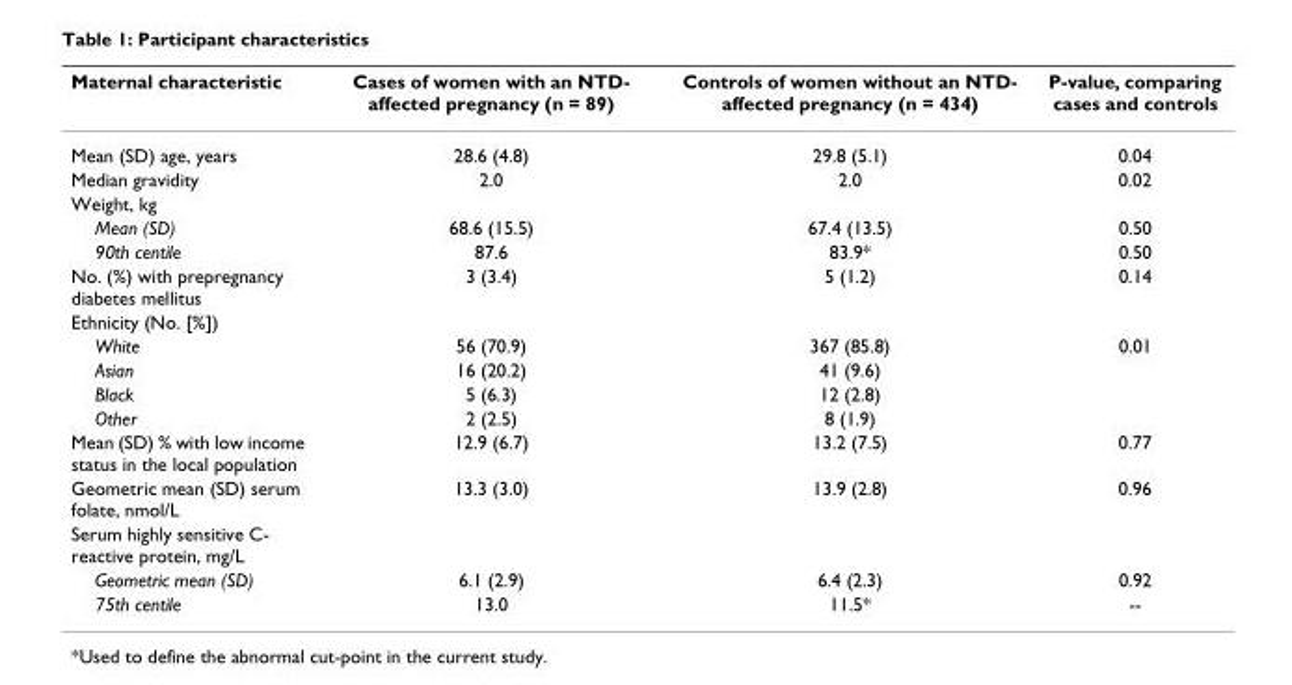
<table><thead><tr><td>Maternal characteristic</td><td>Cases of women with an NTD- affected pregnancy (n = 89)</td><td>Controls of women without an NTD- affected pregnancy (n = 434)</td><td>P-value, comparing cases and controls</td></tr></thead><tbody><tr><td>Mean (SD) age, years</td><td>28.6 (4.8)</td><td>29.8 (5.1)</td><td>0.04</td></tr><tr><td>Median gravidity</td><td>2.0</td><td>2.0</td><td>0.02</td></tr><tr><td colspan="4">Weight, kg</td></tr><tr><td>Mean (SD)</td><td>68.6 (15.5)</td><td>67.4 (13.5)</td><td>0.50</td></tr><tr><td>90th centile</td><td>87.6</td><td>83.9*</td><td>0.50</td></tr><tr><td>No. (%) with prepregnancy diabetes mellitus</td><td>3 (3.4)</td><td>5 (1.2)</td><td>0.14</td></tr><tr><td colspan="4">Ethnicity (No. [%])</td></tr><tr><td>White</td><td>56 (70.9)</td><td>367 (85.8)</td><td>0.01</td></tr><tr><td>Asian</td><td>16 (20.2)</td><td>41 (9.6)</td><td></td></tr><tr><td>Black</td><td>5 (6.3)</td><td>12 (2.8)</td><td></td></tr><tr><td>Other</td><td>2 (2.5)</td><td>8 (1.9)</td><td></td></tr><tr><td>Mean (SD) % with low income status in the local population</td><td>12.9 (6.7)</td><td>13.2 (7.5)</td><td>0.77</td></tr><tr><td>Geometric mean (SD) serum folate, nmol/L</td><td>13.3 (3.0)</td><td>13.9 (2.8)</td><td>0.96</td></tr><tr><td colspan="4">Serum highly sensitive C- reactive protein, mg/L</td></tr><tr><td>Geometric mean (SD)</td><td>6.1 (2.9)</td><td>6.4 (2.3)</td><td>0.92</td></tr><tr><td>75th centile</td><td>13.0</td><td>11.5*</td><td>--</td></tr></tbody></table>